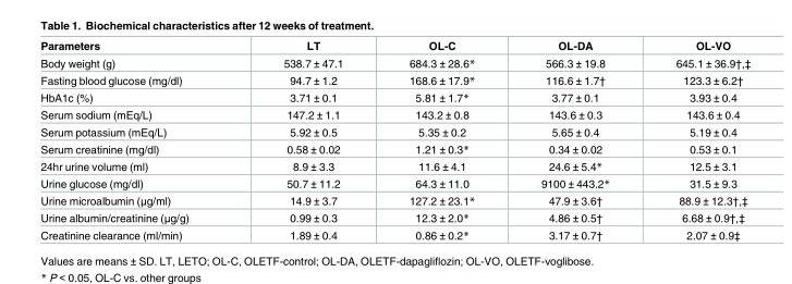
<table><thead><tr><td>Parameters</td><td>LT</td><td>OL-C</td><td>OL-DA</td><td>OL-VO</td></tr></thead><tbody><tr><td>Body weight (g)</td><td>538.7 ± 47.1</td><td>684.3 ± 28.6*</td><td>566.3 ± 19.8</td><td>645.1 ± 36.9†,‡</td></tr><tr><td>Fasting blood glucose (mg/dl)</td><td>94.7 ± 1.2</td><td>168.6 ± 17.9*</td><td>116.6 ± 1.7†</td><td>123.3 ± 6.2†</td></tr><tr><td>HbA1c (%)</td><td>3.71 ± 0.1</td><td>5.81 ± 1.7*</td><td>3.77 ± 0.1</td><td>3.93 ± 0.4</td></tr><tr><td>Serum sodium (mEq/L)</td><td>147.2 ± 1.1</td><td>143.2 ± 0.8</td><td>143.6 ± 0.3</td><td>143.6 ± 0.4</td></tr><tr><td>Serum potassium (mEq/L)</td><td>5.92 ± 0.5</td><td>5.35 ± 0.2</td><td>5.65 ± 0.4</td><td>5.19 ± 0.4</td></tr><tr><td>Serum creatinine (mg/dl)</td><td>0.58 ± 0.02</td><td>1.21 ± 0.3*</td><td>0.34 ± 0.02</td><td>0.53 ± 0.1</td></tr><tr><td>24hr urine volume (ml)</td><td>8.9 ± 3.3</td><td>11.6 ± 4.1</td><td>24.6 ± 5.4*</td><td>12.5 ± 3.1</td></tr><tr><td>Urine glucose (mg/dl)</td><td>50.7 ± 11.2</td><td>64.3 ± 11.0</td><td>9100 ± 443.2*</td><td>31.5 ± 9.3</td></tr><tr><td>Urine microalbumin (μg/ml)</td><td>14.9 ± 3.7</td><td>127.2 ± 23.1*</td><td>47.9 ± 3.6†</td><td>88.9 ± 12.3†,‡</td></tr><tr><td>Urine albumin/creatinine (μg/g)</td><td>0.99 ± 0.3</td><td>12.3 ± 2.0*</td><td>4.86 ± 0.5†</td><td>6.68 ± 0.9†,‡</td></tr><tr><td>Creatinine clearance (ml/min)</td><td>1.89 ± 0.4</td><td>0.86 ± 0.2*</td><td>3.17 ± 0.7†</td><td>2.07 ± 0.9‡</td></tr></tbody></table>